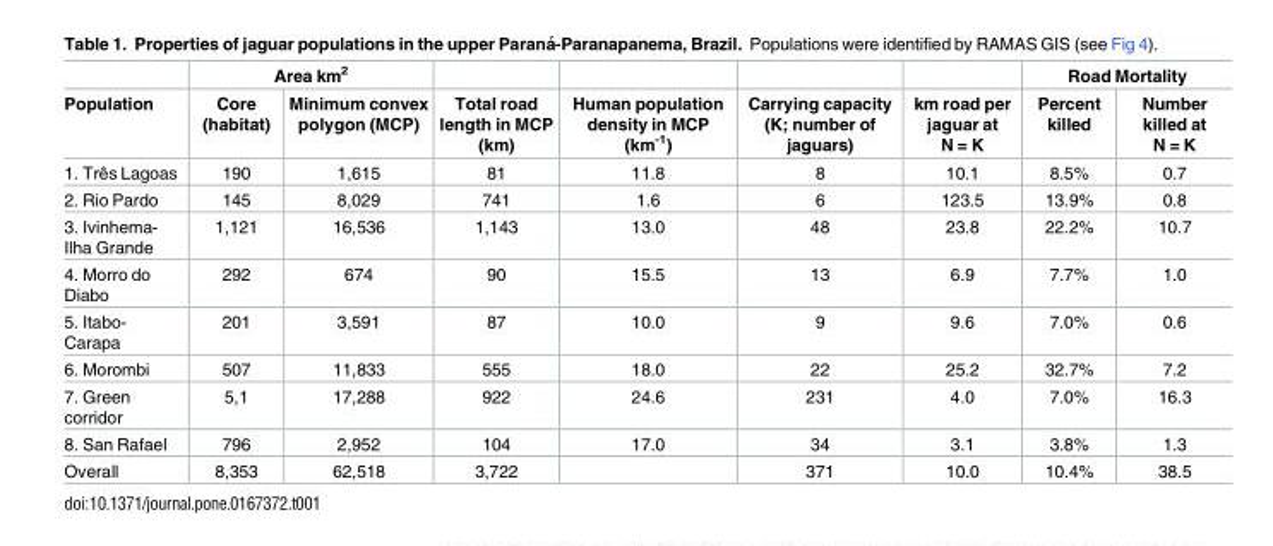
<table><thead><tr><td rowspan="2">Population</td><td colspan="2">Area km<sup>2</sup></td><td rowspan="2">Total road length in MCP (km)</td><td rowspan="2">Human population density in MCP (km<sup>-1</sup>)</td><td rowspan="2">Carrying capacity (K; number of jaguars)</td><td rowspan="2">km road per jaguar at N = K</td><td colspan="2">Road Mortality</td></tr><tr><td>Core (habitat)</td><td>Minimum convex polygon (MCP)</td><td>Percent killed</td><td>Number killed at N = K</td></tr></thead><tbody><tr><td>1. Três Lagoas</td><td>190</td><td>1,615</td><td>81</td><td>11.8</td><td>8</td><td>10.1</td><td>8.5%</td><td>0.7</td></tr><tr><td>2. Rio Pardo</td><td>145</td><td>8,029</td><td>741</td><td>1.6</td><td>6</td><td>123.5</td><td>13.9%</td><td>0.8</td></tr><tr><td>3. Ivinhema- Ilha Grande</td><td>1,121</td><td>16,536</td><td>1,143</td><td>13.0</td><td>48</td><td>23.8</td><td>22.2%</td><td>10.7</td></tr><tr><td>4. Morro do Diabo</td><td>292</td><td>674</td><td>90</td><td>15.5</td><td>13</td><td>6.9</td><td>7.7%</td><td>1.0</td></tr><tr><td>5. Itabo- Carapa</td><td>201</td><td>3,591</td><td>87</td><td>10.0</td><td>9</td><td>9.6</td><td>7.0%</td><td>0.6</td></tr><tr><td>6. Morombi</td><td>507</td><td>11,833</td><td>555</td><td>18.0</td><td>22</td><td>25.2</td><td>32.7%</td><td>7.2</td></tr><tr><td>7. Green corridor</td><td>5,1</td><td>17,288</td><td>922</td><td>24.6</td><td>231</td><td>4.0</td><td>7.0%</td><td>16.3</td></tr><tr><td>8. San Rafael</td><td>796</td><td>2,952</td><td>104</td><td>17.0</td><td>34</td><td>3.1</td><td>3.8%</td><td>1.3</td></tr><tr><td>Overall</td><td>8,353</td><td>62,518</td><td>3,722</td><td></td><td>371</td><td>10.0</td><td>10.4%</td><td>38.5</td></tr></tbody></table>